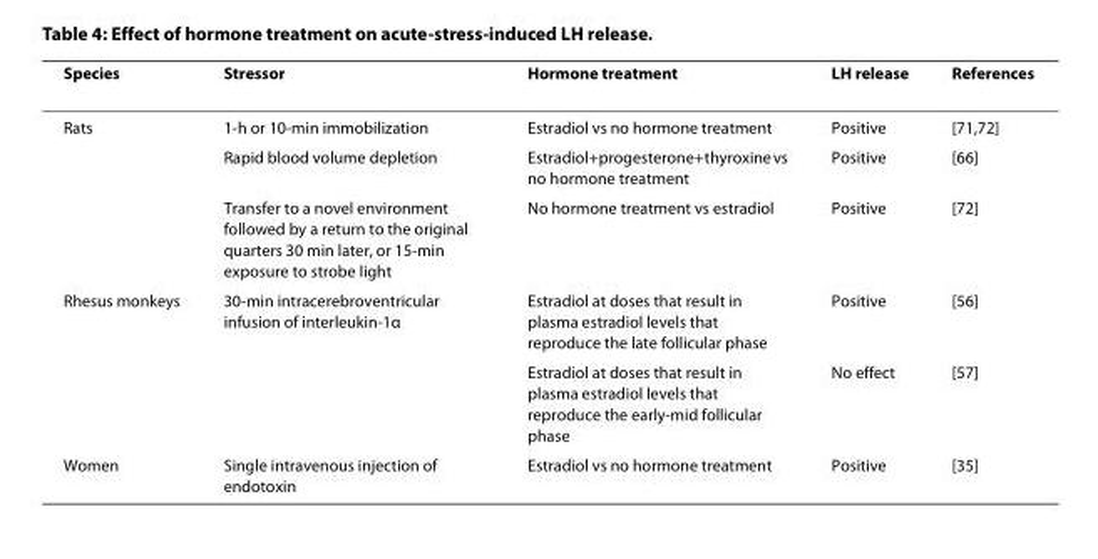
<table><thead><tr><td>Species</td><td>Stressor</td><td>Hormone treatment</td><td>LH release</td><td>References</td></tr></thead><tbody><tr><td rowspan="3">Rats</td><td>1-h or 10-min immobilization</td><td>Estradiol vs no hormone treatment</td><td>Positive</td><td>[71,72]</td></tr><tr><td>Rapid blood volume depletion</td><td>Estradiol+progesterone+thyroxine vs no hormone treatment</td><td>Positive</td><td>[66]</td></tr><tr><td>Transfer to a novel environment followed by a return to the original quarters 30 min later, or 15-min exposure to strobe light</td><td>No hormone treatment vs estradiol</td><td>Positive</td><td>[72]</td></tr><tr><td rowspan="2">Rhesus monkeys</td><td>30-min intracerebroventricular infusion of interleukin-1α</td><td>Estradiol at doses that result in plasma estradiol levels that reproduce the late follicular phase</td><td>Positive</td><td>[56]</td></tr><tr><td></td><td>Estradiol at doses that result in plasma estradiol levels that reproduce the early-mid follicular phase</td><td>No effect</td><td>[57]</td></tr><tr><td>Women</td><td>Single intravenous injection of endotoxin</td><td>Estradiol vs no hormone treatment</td><td>Positive</td><td>[35]</td></tr></tbody></table>